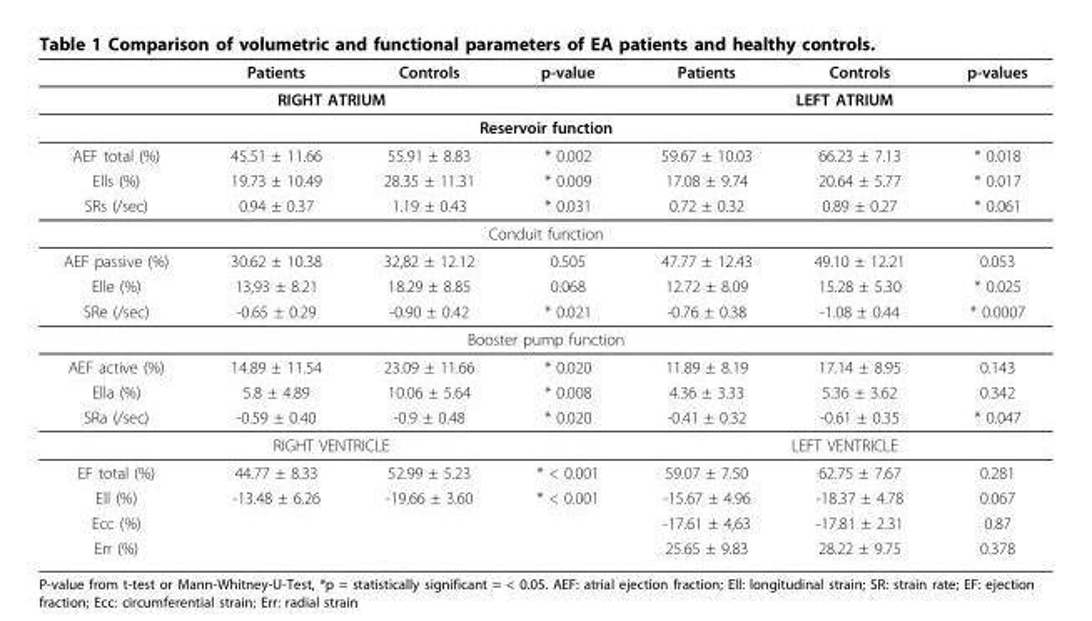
<table><thead><tr><td></td><td>Patients</td><td>Controls</td><td>p-value</td><td>Patients</td><td>Controls</td><td>p-values</td></tr><tr><td colspan="4">RIGHT ATRIUM</td><td colspan="3">LEFT ATRIUM</td></tr><tr><td colspan="7">Reservoir function</td></tr></thead><tbody><tr><td>AEF total (%)</td><td>45.51 ± 11.66</td><td>55.91 ± 8.83</td><td>* 0.002</td><td>59.67 ± 10.03</td><td>66.23 ± 7.13</td><td>* 0.018</td></tr><tr><td>Ells (%)</td><td>19.73 ± 10.49</td><td>28.35 ± 11.31</td><td>* 0.009</td><td>17.08 ± 9.74</td><td>20.64 ± 5.77</td><td>* 0.017</td></tr><tr><td>SRs (/sec)</td><td>0.94 ± 0.37</td><td>1.19 ± 0.43</td><td>* 0.031</td><td>0.72 ± 0.32</td><td>0.89 ± 0.27</td><td>* 0.061</td></tr><tr><td colspan="7">Conduit function</td></tr><tr><td>AEF passive (%)</td><td>30.62 ± 10.38</td><td>32,82 ± 12.12</td><td>0.505</td><td>47.77 ± 12.43</td><td>49.10 ± 12.21</td><td>0.053</td></tr><tr><td>Elle (%)</td><td>13,93 ± 8.21</td><td>18.29 ± 8.85</td><td>0.068</td><td>12.72 ± 8.09</td><td>15.28 ± 5.30</td><td>* 0.025</td></tr><tr><td>SRe (/sec)</td><td>-0.65 ± 0.29</td><td>-0.90 ± 0.42</td><td>* 0.021</td><td>-0.76 ± 0.38</td><td>-1.08 ± 0.44</td><td>* 0.0007</td></tr><tr><td colspan="7">Booster pump function</td></tr><tr><td>AEF active (%)</td><td>14.89 ± 11.54</td><td>23.09 ± 11.66</td><td>* 0.020</td><td>11.89 ± 8.19</td><td>17.14 ± 8.95</td><td>0.143</td></tr><tr><td>Ella (%)</td><td>5.8 ± 4.89</td><td>10.06 ± 5.64</td><td>* 0.008</td><td>4.36 ± 3.33</td><td>5.36 ± 3.62</td><td>0.342</td></tr><tr><td>SRa (/sec)</td><td>-0.59 ± 0.40</td><td>-0.9 ± 0.48</td><td>* 0.020</td><td>-0.41 ± 0.32</td><td>-0.61 ± 0.35</td><td>* 0.047</td></tr><tr><td colspan="4">RIGHT VENTRICLE</td><td colspan="3">LEFT VENTRICLE</td></tr><tr><td>EF total (%)</td><td>44.77 ± 8.33</td><td>52.99 ± 5.23</td><td>* &lt; 0.001</td><td>59.07 ± 7.50</td><td>62.75 ± 7.67</td><td>0.281</td></tr><tr><td>Ell (%)</td><td>-13.48 ± 6.26</td><td>-19.66 ± 3.60</td><td>* &lt; 0.001</td><td>-15.67 ± 4.96</td><td>-18.37 ± 4.78</td><td>0.067</td></tr><tr><td>Ecc (%)</td><td></td><td></td><td></td><td>-17.61 ± 4,63</td><td>-17.81 ± 2.31</td><td>0.87</td></tr><tr><td>Err (%)</td><td></td><td></td><td></td><td>25.65 ± 9.83</td><td>28.22 ± 9.75</td><td>0.378</td></tr></tbody></table>